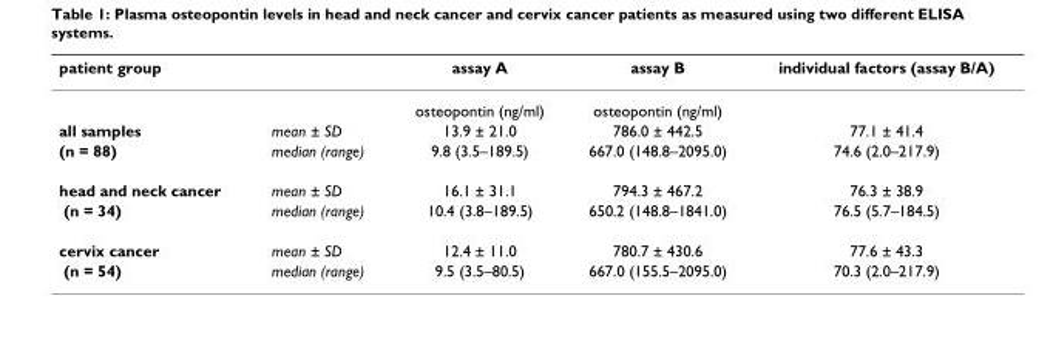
<table><thead><tr><td>patient group</td><td></td><td>assay A</td><td>assay B</td><td>individual factors (assay B/A)</td></tr></thead><tbody><tr><td></td><td></td><td>osteopontin (ng/ml)</td><td>osteopontin (ng/ml)</td><td></td></tr><tr><td>all samples</td><td>mean ± SD</td><td>13.9 ± 21.0</td><td>786.0 ± 442.5</td><td>77.1 ± 41.4</td></tr><tr><td>(n = 88)</td><td>median (range)</td><td>9.8 (3.5–189.5)</td><td>667.0 (148.8–2095.0)</td><td>74.6 (2.0–217.9)</td></tr><tr><td>head and neck cancer</td><td>mean ± SD</td><td>16.1 ± 31.1</td><td>794.3 ± 467.2</td><td>76.3 ± 38.9</td></tr><tr><td>(n = 34)</td><td>median (range)</td><td>10.4 (3.8–189.5)</td><td>650.2 (148.8–1841.0)</td><td>76.5 (5.7–184.5)</td></tr><tr><td>cervix cancer</td><td>mean ± SD</td><td>12.4 ± 11.0</td><td>780.7 ± 430.6</td><td>77.6 ± 43.3</td></tr><tr><td>(n = 54)</td><td>median (range)</td><td>9.5 (3.5–80.5)</td><td>667.0 (155.5–2095.0)</td><td>70.3 (2.0–217.9)</td></tr></tbody></table>